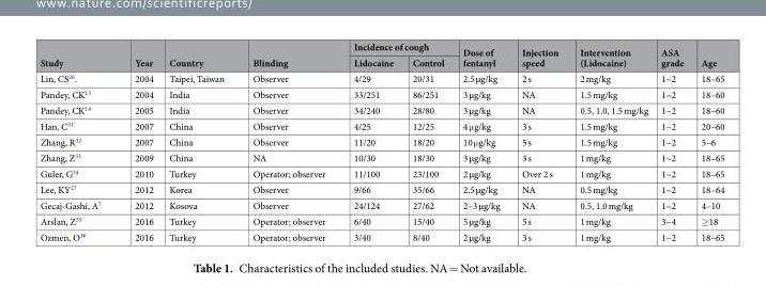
<table><thead><tr><td rowspan="2">Study</td><td rowspan="2">Year</td><td rowspan="2">Country</td><td rowspan="2">Blinding</td><td colspan="2">Incidence of cough</td><td rowspan="2">Dose of fentanyl</td><td rowspan="2">Injection speed</td><td rowspan="2">Intervention (Lidocaine)</td><td rowspan="2">ASA grade</td><td rowspan="2">Age</td></tr><tr><td>Lidocaine</td><td>Control</td></tr></thead><tbody><tr><td>Lin, CS<sup>26</sup>.</td><td>2004</td><td>Taipei, Taiwan</td><td>Observer</td><td>4/29</td><td>20/31</td><td>2.5 µg/kg</td><td>2 s</td><td>2 mg/kg</td><td>1~2</td><td>18–65</td></tr><tr><td>Pandey, CK<sup>13</sup></td><td>2004</td><td>India</td><td>Observer</td><td>33/251</td><td>86/251</td><td>3 µg/kg</td><td>NA</td><td>1.5 mg/kg</td><td>1~2</td><td>18–60</td></tr><tr><td>Pandey, CK<sup>14</sup></td><td>2005</td><td>India</td><td>Observer</td><td>34/240</td><td>28/80</td><td>3 µg/kg</td><td>NA</td><td>0.5, 1.0, 1.5 mg/kg</td><td>1~2</td><td>18–60</td></tr><tr><td>Han, C<sup>31</sup></td><td>2007</td><td>China</td><td>Observer</td><td>4/25</td><td>12/25</td><td>4 μg/kg</td><td>3 s</td><td>1.5 mg/kg</td><td>1~2</td><td>20–60</td></tr><tr><td>Zhang, R<sup>32</sup></td><td>2007</td><td>China</td><td>Observer</td><td>11/20</td><td>18/20</td><td>10 μg/kg</td><td>5 s</td><td>1.5 mg/kg</td><td>1~2</td><td>5–6</td></tr><tr><td>Zhang, Z<sup>33</sup></td><td>2009</td><td>China</td><td>NA</td><td>10/30</td><td>18/30</td><td>3 µg/kg</td><td>3 s</td><td>1 mg/kg</td><td>1~2</td><td>18–65</td></tr><tr><td>Guler, G<sup>34</sup></td><td>2010</td><td>Turkey</td><td>Operator; observer</td><td>11/100</td><td>23/100</td><td>2 µg/kg</td><td>Over 2 s</td><td>1 mg/kg</td><td>1~2</td><td>18–65</td></tr><tr><td>Lee, KY<sup>27</sup></td><td>2012</td><td>Korea</td><td>Observer</td><td>9/66</td><td>35/66</td><td>2.5 µg/kg</td><td>NA</td><td>0.5 mg/kg</td><td>1~2</td><td>18–64</td></tr><tr><td>Gecaj-Gashi, A<sup>7</sup></td><td>2012</td><td>Kosova</td><td>Observer</td><td>24/124</td><td>27/62</td><td>2–3 µg/kg</td><td>NA</td><td>0.5, 1.0 mg/kg</td><td>1~2</td><td>4–10</td></tr><tr><td>Arslan, Z<sup>35</sup></td><td>2016</td><td>Turkey</td><td>Operator; observer</td><td>6/40</td><td>15/40</td><td>5 µg/kg</td><td>5 s</td><td>1 mg/kg</td><td>3~4</td><td>≥18</td></tr><tr><td>Ozmen, O<sup>36</sup></td><td>2016</td><td>Turkey</td><td>Operator; observer</td><td>3/40</td><td>8/40</td><td>2 µg/kg</td><td>3 s</td><td>1 mg/kg</td><td>1~2</td><td>18–65</td></tr></tbody></table>